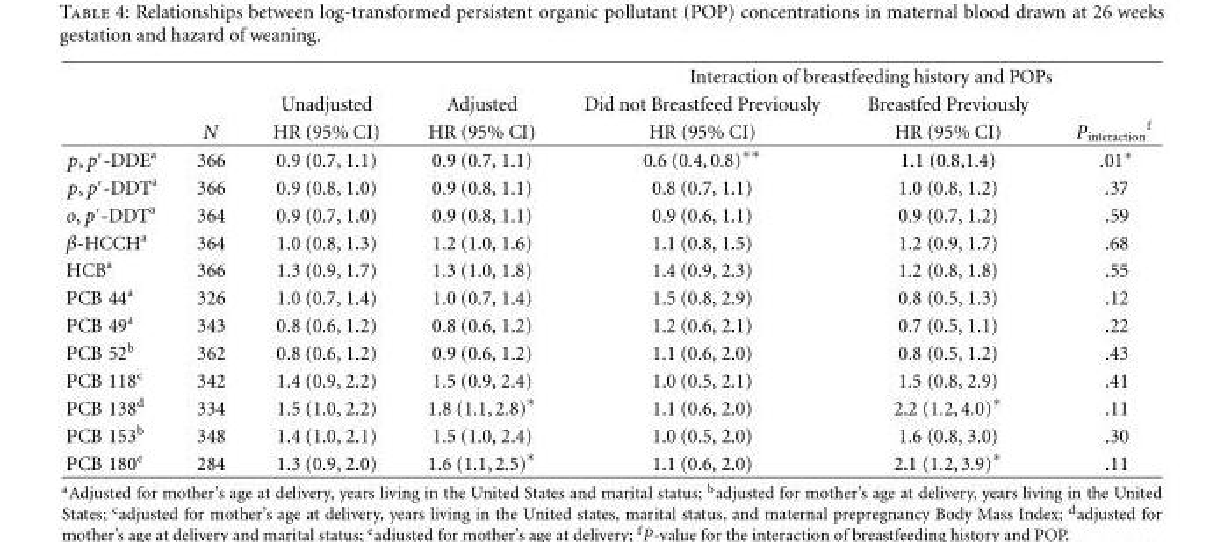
<table><thead><tr><td rowspan="3"></td><td rowspan="3">N</td><td rowspan="3">Unadjusted HR (95% CI)</td><td rowspan="3">Adjusted HR (95% CI)</td><td colspan="3">Interaction of breastfeeding history and POPs</td></tr><tr><td rowspan="2">Did not Breastfeed Previously HR (95% CI)</td><td rowspan="2">Breastfed Previously HR (95% CI)</td><td rowspan="2">P<sub>interaction</sub> <sup>f</sup></td></tr><tr></tr></thead><tbody><tr><td>p, p′-DDE<sup>a</sup></td><td>366</td><td>0.9 (0.7, 1.1)</td><td>0.9 (0.7, 1.1)</td><td>0.6 (0.4,0.8)∗∗</td><td>1.1 (0.8,1.4)</td><td>.01∗</td></tr><tr><td>p, p′-DDT<sup>a</sup></td><td>366</td><td>0.9 (0.8, 1.0)</td><td>0.9 (0.8, 1.1)</td><td>0.8 (0.7, 1.1)</td><td>1.0 (0.8, 1.2)</td><td>.37</td></tr><tr><td>o, p′-DDT<sup>a</sup></td><td>364</td><td>0.9 (0.7, 1.0)</td><td>0.9 (0.8, 1.1)</td><td>0.9 (0.6, 1.1)</td><td>0.9 (0.7, 1.2)</td><td>.59</td></tr><tr><td>β-HCCH<sup>a</sup></td><td>364</td><td>1.0 (0.8, 1.3)</td><td>1.2 (1.0, 1.6)</td><td>1.1 (0.8, 1.5)</td><td>1.2 (0.9, 1.7)</td><td>.68</td></tr><tr><td>HCB<sup>a</sup></td><td>366</td><td>1.3 (0.9, 1.7)</td><td>1.3 (1.0, 1.8)</td><td>1.4 (0.9, 2.3)</td><td>1.2 (0.8, 1.8)</td><td>.55</td></tr><tr><td>PCB 44<sup>a</sup></td><td>326</td><td>1.0 (0.7, 1.4)</td><td>1.0 (0.7, 1.4)</td><td>1.5 (0.8, 2.9)</td><td>0.8 (0.5, 1.3)</td><td>.12</td></tr><tr><td>PCB 49<sup>a</sup></td><td>343</td><td>0.8 (0.6, 1.2)</td><td>0.8 (0.6, 1.2)</td><td>1.2 (0.6, 2.1)</td><td>0.7 (0.5, 1.1)</td><td>.22</td></tr><tr><td>PCB 52<sup>b</sup></td><td>362</td><td>0.8 (0.6, 1.2)</td><td>0.9 (0.6, 1.2)</td><td>1.1 (0.6, 2.0)</td><td>0.8 (0.5, 1.2)</td><td>.43</td></tr><tr><td>PCB 118<sup>c</sup></td><td>342</td><td>1.4 (0.9, 2.2)</td><td>1.5 (0.9, 2.4)</td><td>1.0 (0.5, 2.1)</td><td>1.5 (0.8, 2.9)</td><td>.41</td></tr><tr><td>PCB 138<sup>d</sup></td><td>334</td><td>1.5 (1.0, 2.2)</td><td>1.8 (1.1,2.8)∗</td><td>1.1 (0.6, 2.0)</td><td>2.2 (1.2,4.0)∗</td><td>.11</td></tr><tr><td>PCB 153<sup>b</sup></td><td>348</td><td>1.4 (1.0, 2.1)</td><td>1.5 (1.0, 2.4)</td><td>1.0 (0.5, 2.0)</td><td>1.6 (0.8, 3.0)</td><td>.30</td></tr><tr><td>PCB 180<sup>e</sup></td><td>284</td><td>1.3 (0.9, 2.0)</td><td>1.6 (1.1,2.5)∗</td><td>1.1 (0.6, 2.0)</td><td>2.1 (1.2,3.9)∗</td><td>.11</td></tr></tbody></table>